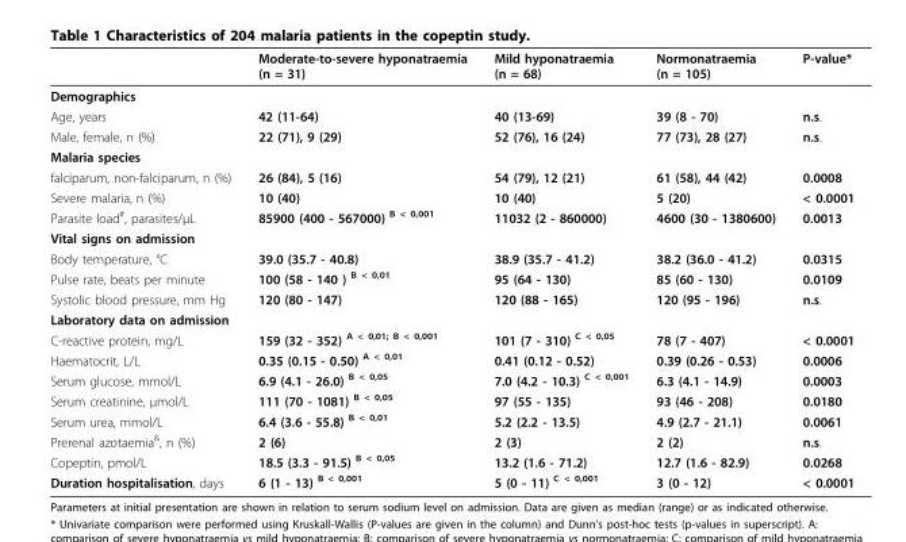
<table><thead><tr><td></td><td>Moderate-to-severe hyponatraemia (n = 31)</td><td>Mild hyponatraemia (n = 68)</td><td>Normonatraemia (n = 105)</td><td>P-value*</td></tr></thead><tbody><tr><td colspan="5">Demographics</td></tr><tr><td>Age, years</td><td>42 (11-64)</td><td>40 (13-69)</td><td>39 (8 - 70)</td><td>n.s.</td></tr><tr><td>Male, female, n (%)</td><td>22 (71), 9 (29)</td><td>52 (76), 16 (24)</td><td>77 (73), 28 (27)</td><td>n.s.</td></tr><tr><td colspan="5">Malaria species</td></tr><tr><td>falciparum, non-falciparum, n (%)</td><td>26 (84), 5 (16)</td><td>54 (79), 12 (21)</td><td>61 (58), 44 (42)</td><td>0.0008</td></tr><tr><td>Severe malaria, n (%)</td><td>10 (40)</td><td>10 (40)</td><td>5 (20)</td><td>&lt; 0.0001</td></tr><tr><td>Parasite load<sup>#</sup>, parasites/μL</td><td>85900 (400 - 567000) <sup>B &lt; 0,001</sup></td><td>11032 (2 - 860000)</td><td>4600 (30 - 1380600)</td><td>0.0013</td></tr><tr><td colspan="5">Vital signs on admission</td></tr><tr><td>Body temperature, °C</td><td>39.0 (35.7 - 40.8)</td><td>38.9 (35.7 - 41.2)</td><td>38.2 (36.0 - 41.2)</td><td>0.0315</td></tr><tr><td>Pulse rate, beats per minute</td><td>100 (58 - 140 ) <sup>B &lt; 0,01</sup></td><td>95 (64 - 130)</td><td>85 (60 - 130)</td><td>0.0109</td></tr><tr><td>Systolic blood pressure, mm Hg</td><td>120 (80 - 147)</td><td>120 (88 - 165)</td><td>120 (95 - 196)</td><td>n.s.</td></tr><tr><td colspan="5">Laboratory data on admission</td></tr><tr><td>C-reactive protein, mg/L</td><td>159 (32 - 352) <sup>A &lt; 0,01; B &lt; 0,001</sup></td><td>101 (7 - 310) <sup>C &lt; 0,05</sup></td><td>78 (7 - 407)</td><td>&lt; 0.0001</td></tr><tr><td>Haematocrit, L/L</td><td>0.35 (0.15 - 0.50) <sup>A &lt; 0,01</sup></td><td>0.41 (0.12 - 0.52)</td><td>0.39 (0.26 - 0.53)</td><td>0.0006</td></tr><tr><td>Serum glucose, mmol/L</td><td>6.9 (4.1 - 26.0) <sup>B &lt; 0,05</sup></td><td>7.0 (4.2 - 10.3) <sup>C &lt; 0,001</sup></td><td>6.3 (4.1 - 14.9)</td><td>0.0003</td></tr><tr><td>Serum creatinine, μmol/L</td><td>111 (70 - 1081) <sup>B &lt; 0,05</sup></td><td>97 (55 - 135)</td><td>93 (46 - 208)</td><td>0.0180</td></tr><tr><td>Serum urea, mmol/L</td><td>6.4 (3.6 - 55.8) <sup>B &lt; 0,01</sup></td><td>5.2 (2.2 - 13.5)</td><td>4.9 (2.7 - 21.1)</td><td>0.0061</td></tr><tr><td>Prerenal azotaemia<sup>&amp;</sup>, n (%)</td><td>2 (6)</td><td>2 (3)</td><td>2 (2)</td><td>n.s.</td></tr><tr><td>Copeptin, pmol/L</td><td>18.5 (3.3 - 91.5) <sup>B &lt; 0,05</sup></td><td>13.2 (1.6 - 71.2)</td><td>12.7 (1.6 - 82.9)</td><td>0.0268</td></tr><tr><td>Duration hospitalisation, days</td><td>6 (1 - 13) <sup>B &lt; 0,001</sup></td><td>5 (0 - 11) <sup>C &lt; 0,001</sup></td><td>3 (0 - 12)</td><td>&lt; 0.0001</td></tr></tbody></table>